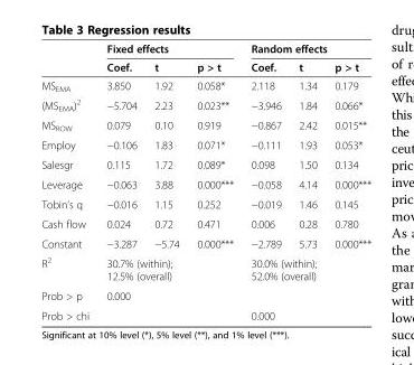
<table><thead><tr><td rowspan="2"></td><td colspan="3">Fixed effects</td><td colspan="3">Random effects</td></tr><tr><td>Coef.</td><td>t</td><td>p &gt; t</td><td>Coef.</td><td>t</td><td>p &gt; t</td></tr></thead><tbody><tr><td>MS<sub>EMA</sub></td><td>3.850</td><td>1.92</td><td>0.058*</td><td>2.118</td><td>1.34</td><td>0.179</td></tr><tr><td>(MS<sub>EMA</sub>)<sup>2</sup></td><td>−5.704</td><td>2.23</td><td>0.023**</td><td>−3.946</td><td>1.84</td><td>0.066*</td></tr><tr><td>MS<sub>ROW</sub></td><td>0.079</td><td>0.10</td><td>0.919</td><td>−0.867</td><td>2.42</td><td>0.015**</td></tr><tr><td>Employ</td><td>−0.106</td><td>1.83</td><td>0.071*</td><td>−0.111</td><td>1.93</td><td>0.053*</td></tr><tr><td>Salesgr</td><td>0.115</td><td>1.72</td><td>0.089*</td><td>0.098</td><td>1.50</td><td>0.134</td></tr><tr><td>Leverage</td><td>−0.063</td><td>3.88</td><td>0.000***</td><td>−0.058</td><td>4.14</td><td>0.000***</td></tr><tr><td>Tobin’s q</td><td>−0.016</td><td>1.15</td><td>0.252</td><td>−0.019</td><td>1.46</td><td>0.145</td></tr><tr><td>Cash flow</td><td>0.024</td><td>0.72</td><td>0.471</td><td>0.006</td><td>0.28</td><td>0.780</td></tr><tr><td>Constant</td><td>−3.287</td><td>−5.74</td><td>0.000***</td><td>−2.789</td><td>5.73</td><td>0.000***</td></tr><tr><td>R<sup>2</sup></td><td colspan="3">30.7% (within); 12.5% (overall)</td><td colspan="3">30.0% (within); 52.0% (overall)</td></tr><tr><td>Prob &gt; p</td><td colspan="3">0.000</td><td colspan="3"></td></tr><tr><td>Prob &gt; chi</td><td colspan="3"></td><td colspan="3">0.000</td></tr></tbody></table>